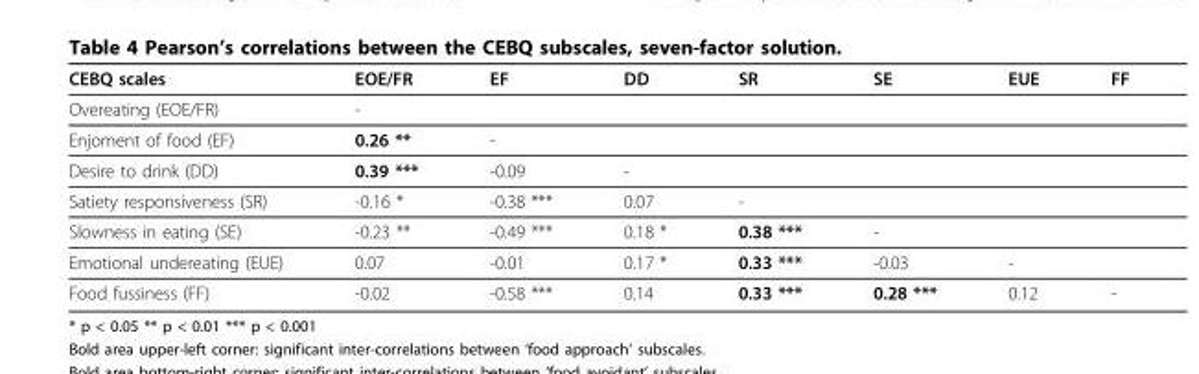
<table><thead><tr><td>CEBQ scales</td><td>EOE/FR</td><td>EF</td><td>DD</td><td>SR</td><td>SE</td><td>EUE</td><td>FF</td></tr></thead><tbody><tr><td>Overeating (EOE/FR)</td><td>-</td><td></td><td></td><td></td><td></td><td></td><td></td></tr><tr><td>Enjoment of food (EF)</td><td>0.26 **</td><td>-</td><td></td><td></td><td></td><td></td><td></td></tr><tr><td>Desire to drink (DD)</td><td>0.39 ***</td><td>-0.09</td><td>-</td><td></td><td></td><td></td><td></td></tr><tr><td>Satiety responsiveness (SR)</td><td>-0.16 *</td><td>-0.38 ***</td><td>0.07</td><td>-</td><td></td><td></td><td></td></tr><tr><td>Slowness in eating (SE)</td><td>-0.23 **</td><td>-0.49 ***</td><td>0.18 *</td><td>0.38 ***</td><td>-</td><td></td><td></td></tr><tr><td>Emotional undereating (EUE)</td><td>0.07</td><td>-0.01</td><td>0.17 *</td><td>0.33 ***</td><td>-0.03</td><td>-</td><td></td></tr><tr><td>Food fussiness (FF)</td><td>-0.02</td><td>-0.58 ***</td><td>0.14</td><td>0.33 ***</td><td>0.28 ***</td><td>0.12</td><td>-</td></tr></tbody></table>